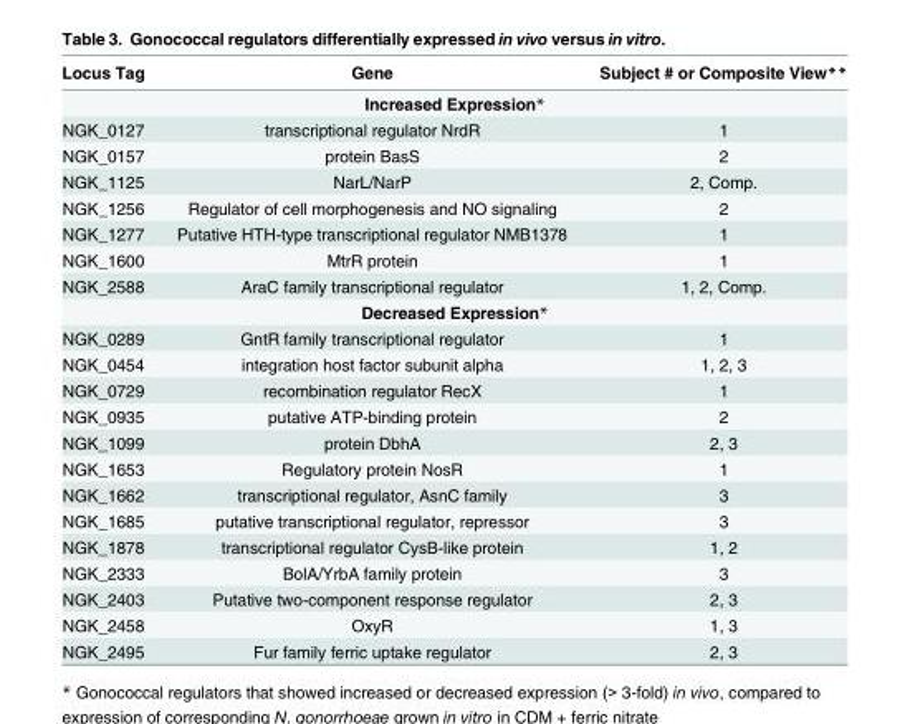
<table><thead><tr><td>Locus Tag</td><td>Gene</td><td>Subject # or Composite View**</td></tr></thead><tbody><tr><td colspan="3">Increased Expression*</td></tr><tr><td>NGK_0127</td><td>transcriptional regulator NrdR</td><td>1</td></tr><tr><td>NGK_0157</td><td>protein BasS</td><td>2</td></tr><tr><td>NGK_1125</td><td>NarL/NarP</td><td>2, Comp.</td></tr><tr><td>NGK_1256</td><td>Regulator of cell morphogenesis and NO signaling</td><td>2</td></tr><tr><td>NGK_1277</td><td>Putative HTH-type transcriptional regulator NMB1378</td><td>1</td></tr><tr><td>NGK_1600</td><td>MtrR protein</td><td>1</td></tr><tr><td>NGK_2588</td><td>AraC family transcriptional regulator</td><td>1, 2, Comp.</td></tr><tr><td colspan="3">Decreased Expression*</td></tr><tr><td>NGK_0289</td><td>GntR family transcriptional regulator</td><td>1</td></tr><tr><td>NGK_0454</td><td>integration host factor subunit alpha</td><td>1, 2, 3</td></tr><tr><td>NGK_0729</td><td>recombination regulator RecX</td><td>1</td></tr><tr><td>NGK_0935</td><td>putative ATP-binding protein</td><td>2</td></tr><tr><td>NGK_1099</td><td>protein DbhA</td><td>2, 3</td></tr><tr><td>NGK_1653</td><td>Regulatory protein NosR</td><td>1</td></tr><tr><td>NGK_1662</td><td>transcriptional regulator, AsnC family</td><td>3</td></tr><tr><td>NGK_1685</td><td>putative transcriptional regulator, repressor</td><td>3</td></tr><tr><td>NGK_1878</td><td>transcriptional regulator CysB-like protein</td><td>1, 2</td></tr><tr><td>NGK_2333</td><td>BolA/YrbA family protein</td><td>3</td></tr><tr><td>NGK_2403</td><td>Putative two-component response regulator</td><td>2, 3</td></tr><tr><td>NGK_2458</td><td>OxyR</td><td>1, 3</td></tr><tr><td>NGK_2495</td><td>Fur family ferric uptake regulator</td><td>2, 3</td></tr></tbody></table>